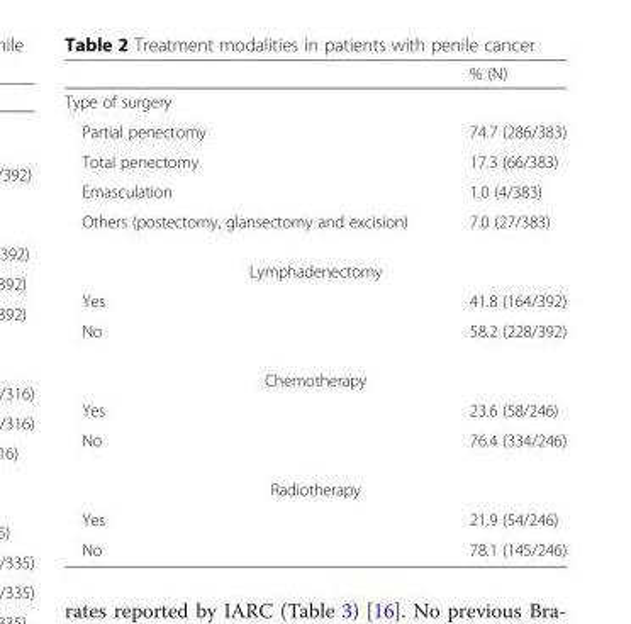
<table><thead><tr><td></td><td>% (N)</td></tr></thead><tbody><tr><td colspan="2">Type of surgery</td></tr><tr><td>Partial penectomy</td><td>74.7 (286/383)</td></tr><tr><td>Total penectomy</td><td>17.3 (66/383)</td></tr><tr><td>Emasculation</td><td>1.0 (4/383)</td></tr><tr><td>Others (postectomy, glansectomy and excision)</td><td>7.0 (27/383)</td></tr><tr><td colspan="2">Lymphadenectomy</td></tr><tr><td>Yes</td><td>41.8 (164/392)</td></tr><tr><td>No</td><td>58.2 (228/392)</td></tr><tr><td colspan="2">Chemotherapy</td></tr><tr><td>Yes</td><td>23.6 (58/246)</td></tr><tr><td>No</td><td>76.4 (334/246)</td></tr><tr><td colspan="2">Radiotherapy</td></tr><tr><td>Yes</td><td>21.9 (54/246)</td></tr><tr><td>No</td><td>78.1 (145/246)</td></tr></tbody></table>